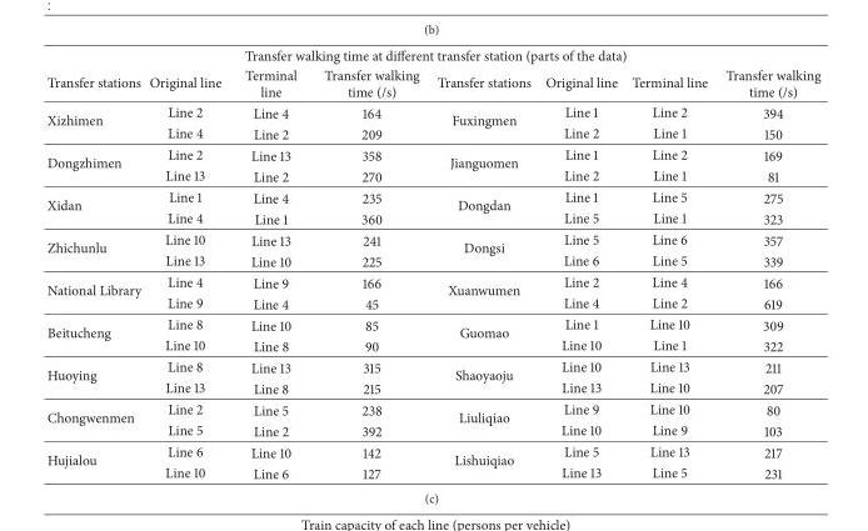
<table><tbody><tr><td colspan="8">Transfer walking time at different transfer station (parts of the data)</td></tr><tr><td>Transfer stations</td><td>Original line</td><td>Terminal line</td><td>Transfer walking time (/s)</td><td>Transfer stations</td><td>Original line</td><td>Terminal line</td><td>Transfer walking time (/s)</td></tr><tr><td rowspan="2">Xizhimen</td><td>Line 2</td><td>Line 4</td><td>164</td><td rowspan="2">Fuxingmen</td><td>Line 1</td><td>Line 2</td><td>394</td></tr><tr><td>Line 4</td><td>Line 2</td><td>209</td><td>Line 2</td><td>Line 1</td><td>150</td></tr><tr><td rowspan="2">Dongzhimen</td><td>Line 2</td><td>Line 13</td><td>358</td><td rowspan="2">Jianguomen</td><td>Line 1</td><td>Line 2</td><td>169</td></tr><tr><td>Line 13</td><td>Line 2</td><td>270</td><td>Line 2</td><td>Line 1</td><td>81</td></tr><tr><td rowspan="2">Xidan</td><td>Line 1</td><td>Line 4</td><td>235</td><td rowspan="2">Dongdan</td><td>Line 1</td><td>Line 5</td><td>275</td></tr><tr><td>Line 4</td><td>Line 1</td><td>360</td><td>Line 5</td><td>Line 1</td><td>323</td></tr><tr><td rowspan="2">Zhichunlu</td><td>Line 10</td><td>Line 13</td><td>241</td><td rowspan="2">Dongsi</td><td>Line 5</td><td>Line 6</td><td>357</td></tr><tr><td>Line 13</td><td>Line 10</td><td>225</td><td>Line 6</td><td>Line 5</td><td>339</td></tr><tr><td rowspan="2">National Library</td><td>Line 4</td><td>Line 9</td><td>166</td><td rowspan="2">Xuanwumen</td><td>Line 2</td><td>Line 4</td><td>166</td></tr><tr><td>Line 9</td><td>Line 4</td><td>45</td><td>Line 4</td><td>Line 2</td><td>619</td></tr><tr><td rowspan="2">Beitucheng</td><td>Line 8</td><td>Line 10</td><td>85</td><td rowspan="2">Guomao</td><td>Line 1</td><td>Line 10</td><td>309</td></tr><tr><td>Line 10</td><td>Line 8</td><td>90</td><td>Line 10</td><td>Line 1</td><td>322</td></tr><tr><td rowspan="2">Huoying</td><td>Line 8</td><td>Line 13</td><td>315</td><td rowspan="2">Shaoyaoju</td><td>Line 10</td><td>Line 13</td><td>211</td></tr><tr><td>Line 13</td><td>Line 8</td><td>215</td><td>Line 13</td><td>Line 10</td><td>207</td></tr><tr><td rowspan="2">Chongwenmen</td><td>Line 2</td><td>Line 5</td><td>238</td><td rowspan="2">Liuliqiao</td><td>Line 9</td><td>Line 10</td><td>80</td></tr><tr><td>Line 5</td><td>Line 2</td><td>392</td><td>Line 10</td><td>Line 9</td><td>103</td></tr><tr><td rowspan="2">Hujialou</td><td>Line 6</td><td>Line 10</td><td>142</td><td rowspan="2">Lishuiqiao</td><td>Line 5</td><td>Line 13</td><td>217</td></tr><tr><td>Line 10</td><td>Line 6</td><td>127</td><td>Line 13</td><td>Line 5</td><td>231</td></tr></tbody></table>